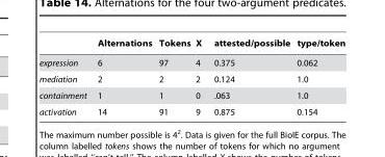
<table><thead><tr><td></td><td>Alternations</td><td>Tokens</td><td>X</td><td>attested/possible</td><td>type/token</td></tr></thead><tbody><tr><td>expression</td><td>6</td><td>97</td><td>4</td><td>0.375</td><td>0.062</td></tr><tr><td>mediation</td><td>2</td><td>2</td><td>2</td><td>0.124</td><td>1.0</td></tr><tr><td>containment</td><td>1</td><td>1</td><td>0</td><td>.063</td><td>1.0</td></tr><tr><td>activation</td><td>14</td><td>91</td><td>9</td><td>0.875</td><td>0.154</td></tr></tbody></table>